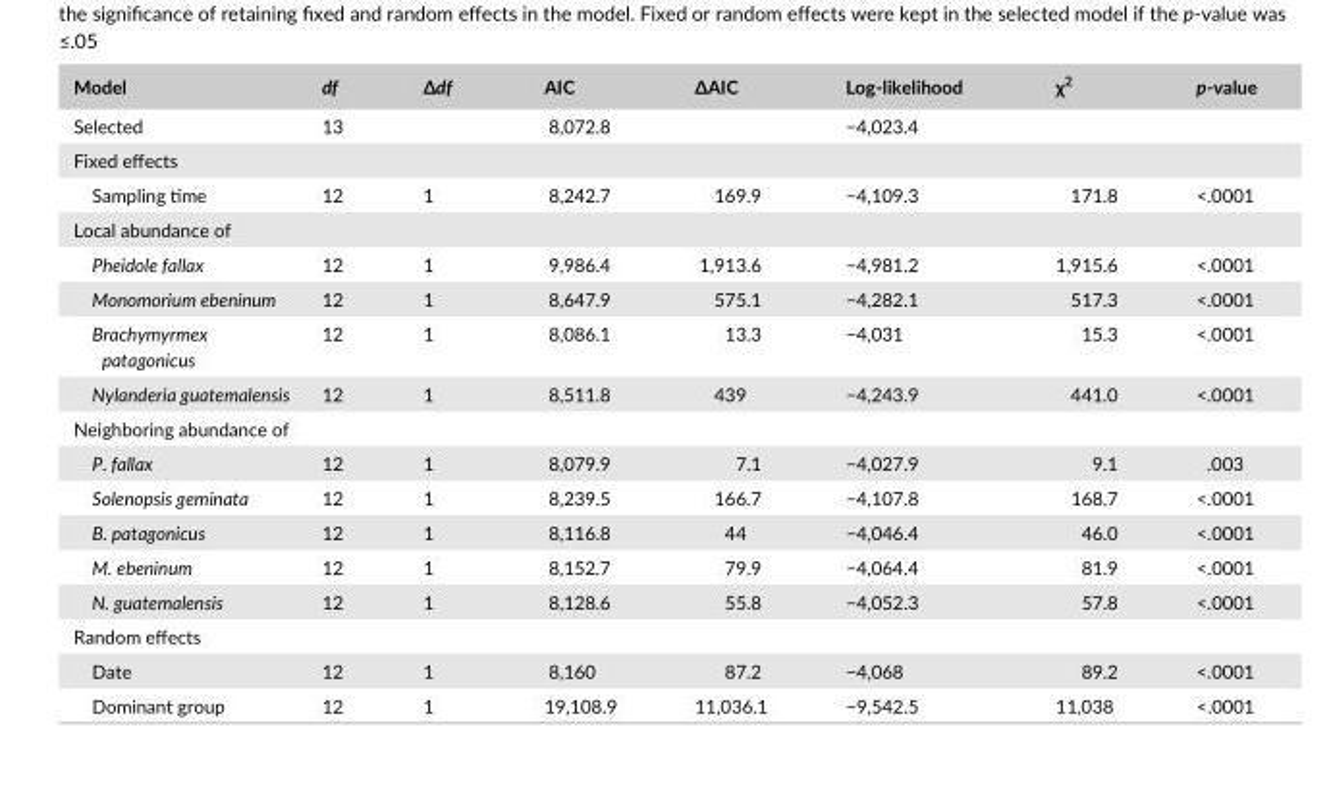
<table><thead><tr><td>Model</td><td>df</td><td>Δdf</td><td>AIC</td><td>ΔAIC</td><td>Log- likelihood</td><td>χ<sup>2</sup></td><td>p- value</td></tr></thead><tbody><tr><td>Selected</td><td>13</td><td></td><td>8,072.8</td><td></td><td>−4,023.4</td><td></td><td></td></tr><tr><td colspan="8">Fixed effects</td></tr><tr><td>Sampling time</td><td>12</td><td>1</td><td>8,242.7</td><td>169.9</td><td>−4,109.3</td><td>171.8</td><td>&lt;.0001</td></tr><tr><td colspan="8">Local abundance of</td></tr><tr><td>Pheidole fallax</td><td>12</td><td>1</td><td>9,986.4</td><td>1,913.6</td><td>−4,981.2</td><td>1,915.6</td><td>&lt;.0001</td></tr><tr><td>Monomorium ebeninum</td><td>12</td><td>1</td><td>8,647.9</td><td>575.1</td><td>−4,282.1</td><td>517.3</td><td>&lt;.0001</td></tr><tr><td>Brachymyrmex patagonicus</td><td>12</td><td>1</td><td>8,086.1</td><td>13.3</td><td>−4,031</td><td>15.3</td><td>&lt;.0001</td></tr><tr><td>Nylanderia guatemalensis</td><td>12</td><td>1</td><td>8,511.8</td><td>439</td><td>−4,243.9</td><td>441.0</td><td>&lt;.0001</td></tr><tr><td colspan="8">Neighboring abundance of</td></tr><tr><td>P. fallax</td><td>12</td><td>1</td><td>8,079.9</td><td>7.1</td><td>−4,027.9</td><td>9.1</td><td>.003</td></tr><tr><td>Solenopsis geminata</td><td>12</td><td>1</td><td>8,239.5</td><td>166.7</td><td>−4,107.8</td><td>168.7</td><td>&lt;.0001</td></tr><tr><td>B. patagonicus</td><td>12</td><td>1</td><td>8,116.8</td><td>44</td><td>−4,046.4</td><td>46.0</td><td>&lt;.0001</td></tr><tr><td>M. ebeninum</td><td>12</td><td>1</td><td>8,152.7</td><td>79.9</td><td>−4,064.4</td><td>81.9</td><td>&lt;.0001</td></tr><tr><td>N. guatemalensis</td><td>12</td><td>1</td><td>8,128.6</td><td>55.8</td><td>−4,052.3</td><td>57.8</td><td>&lt;.0001</td></tr><tr><td colspan="8">Random effects</td></tr><tr><td>Date</td><td>12</td><td>1</td><td>8,160</td><td>87.2</td><td>−4,068</td><td>89.2</td><td>&lt;.0001</td></tr><tr><td>Dominant group</td><td>12</td><td>1</td><td>19,108.9</td><td>11,036.1</td><td>−9,542.5</td><td>11,038</td><td>&lt;.0001</td></tr></tbody></table>